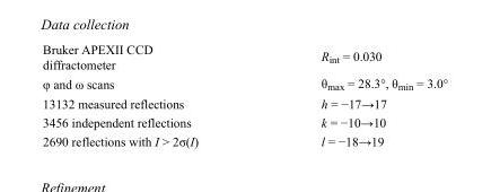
<table><tbody><tr><td>Bruker APEXII CCD diffractometer</td><td>R<sub>int</sub> = 0.030</td></tr><tr><td>φ and ω scans</td><td>θ<sub>max</sub> = 28.3°, θ<sub>min</sub> = 3.0°</td></tr><tr><td>13132 measured reflections</td><td>h = −17→17</td></tr><tr><td>3456 independent reflections</td><td>k = −10→10</td></tr><tr><td>2690 reflections with I &gt; 2σ(I)</td><td>l = −18→19</td></tr></tbody></table>